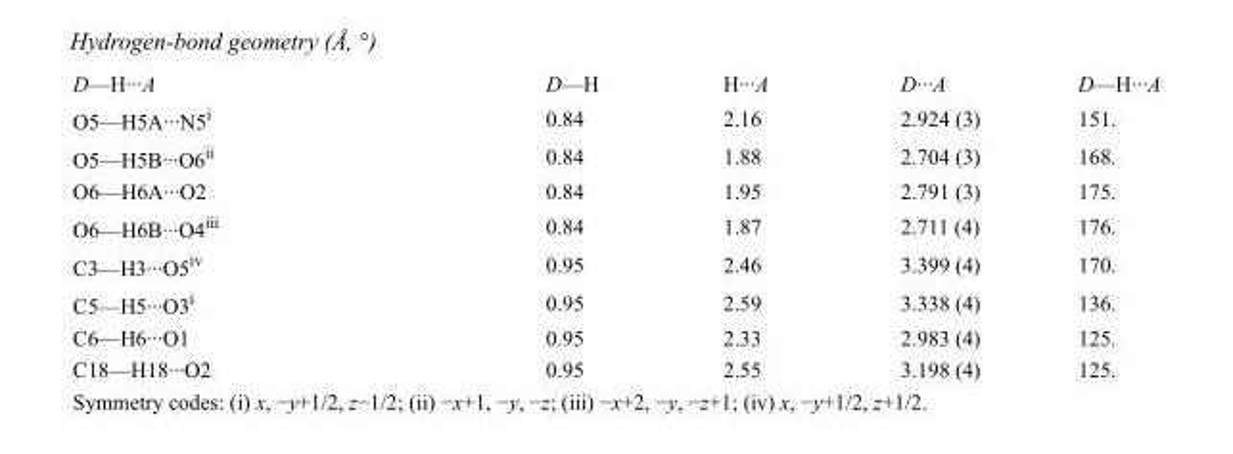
<table><tbody><tr><td>D—H···A</td><td>D—H</td><td>H···A</td><td>D···A</td><td>D—H···A</td></tr><tr><td>O5—H5A···N5<sup>i</sup></td><td>0.84</td><td>2.16</td><td>2.924 (3)</td><td>151.</td></tr><tr><td>O5—H5B···O6<sup>ii</sup></td><td>0.84</td><td>1.88</td><td>2.704 (3)</td><td>168.</td></tr><tr><td>O6—H6A···O2</td><td>0.84</td><td>1.95</td><td>2.791 (3)</td><td>175.</td></tr><tr><td>O6—H6B···O4<sup>iii</sup></td><td>0.84</td><td>1.87</td><td>2.711 (4)</td><td>176.</td></tr><tr><td>C3—H3···O5<sup>iv</sup></td><td>0.95</td><td>2.46</td><td>3.399 (4)</td><td>170.</td></tr><tr><td>C5—H5···O3<sup>i</sup></td><td>0.95</td><td>2.59</td><td>3.338 (4)</td><td>136.</td></tr><tr><td>C6—H6···O1</td><td>0.95</td><td>2.33</td><td>2.983 (4)</td><td>125.</td></tr><tr><td>C18—H18···O2</td><td>0.95</td><td>2.55</td><td>3.198 (4)</td><td>125.</td></tr></tbody></table>